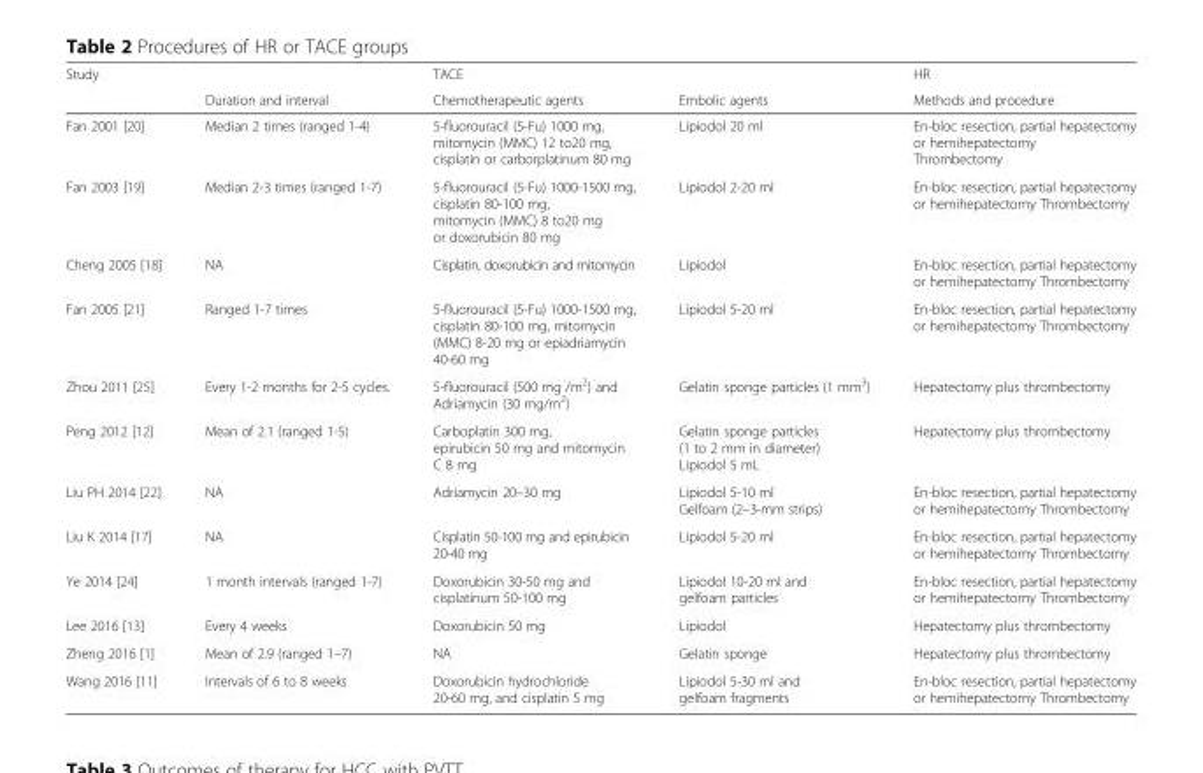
<table><thead><tr><td rowspan="2">Study</td><td rowspan="2">Duration and interval</td><td rowspan="2">TACE Chemotherapeutic agents</td><td rowspan="2">Embolic agents</td><td rowspan="2">HR Methods and procedure</td></tr><tr></tr></thead><tbody><tr><td>Fan 2001 [20]</td><td>Median 2 times (ranged 1-4)</td><td>5-fluorouracil (5-Fu) 1000 mg, mitomycin (MMC) 12 to20 mg, cisplatin or carborplatinum 80 mg</td><td>Lipiodol 20 ml</td><td>En-bloc resection, partial hepatectomy or hemihepatectomy Thrombectomy</td></tr><tr><td>Fan 2003 [19]</td><td>Median 2-3 times (ranged 1-7)</td><td>5-fluorouracil (5-Fu) 1000-1500 mg, cisplatin 80-100 mg, mitomycin (MMC) 8 to20 mg or doxorubicin 80 mg</td><td>Lipiodol 2-20 ml</td><td>En-bloc resection, partial hepatectomy or hemihepatectomy Thrombectomy</td></tr><tr><td>Cheng 2005 [18]</td><td>NA</td><td>Cisplatin, doxorubicin and mitomycin</td><td>Lipiodol</td><td>En-bloc resection, partial hepatectomy or hemihepatectomy Thrombectomy</td></tr><tr><td>Fan 2005 [21]</td><td>Ranged 1-7 times</td><td>5-fluorouracil (5-Fu) 1000-1500 mg, cisplatin 80-100 mg, mitomycin (MMC) 8-20 mg or epiadriamycin 40-60 mg</td><td>Lipiodol 5-20 ml</td><td>En-bloc resection, partial hepatectomy or hemihepatectomy Thrombectomy</td></tr><tr><td>Zhou 2011 [25]</td><td>Every 1-2 months for 2-5 cycles.</td><td>5-fluorouracil (500 mg /m<sup>2</sup>) and Adriamycin (30 mg/m<sup>2</sup>)</td><td>Gelatin sponge particles (1 mm<sup>3</sup>)</td><td>Hepatectomy plus thrombectomy</td></tr><tr><td>Peng 2012 [12]</td><td>Mean of 2.1 (ranged 1-5)</td><td>Carboplatin 300 mg, epirubicin 50 mg and mitomycin C 8 mg</td><td>Gelatin sponge particles (1 to 2 mm in diameter) Lipiodol 5 mL</td><td>Hepatectomy plus thrombectomy</td></tr><tr><td>Liu PH 2014 [22]</td><td>NA</td><td>Adriamycin 20–30 mg</td><td>Lipiodol 5-10 ml Gelfoam (2–3-mm strips)</td><td>En-bloc resection, partial hepatectomy or hemihepatectomy Thrombectomy</td></tr><tr><td>Liu K 2014 [17]</td><td>NA</td><td>Cisplatin 50-100 mg and epirubicin 20-40 mg</td><td>Lipiodol 5-20 ml</td><td>En-bloc resection, partial hepatectomy or hemihepatectomy Thrombectomy</td></tr><tr><td>Ye 2014 [24]</td><td>1 month intervals (ranged 1-7)</td><td>Doxorubicin 30-50 mg and cisplatinum 50-100 mg</td><td>Lipiodol 10-20 ml and gelfoam particles</td><td>En-bloc resection, partial hepatectomy or hemihepatectomy Thrombectomy</td></tr><tr><td>Lee 2016 [13]</td><td>Every 4 weeks</td><td>Doxorubicin 50 mg</td><td>Lipiodol</td><td>Hepatectomy plus thrombectomy</td></tr><tr><td>Zheng 2016 [1]</td><td>Mean of 2.9 (ranged 1–7)</td><td>NA</td><td>Gelatin sponge</td><td>Hepatectomy plus thrombectomy</td></tr><tr><td>Wang 2016 [11]</td><td>Intervals of 6 to 8 weeks</td><td>Doxorubicin hydrochloride 20-60 mg, and cisplatin 5 mg</td><td>Lipiodol 5-30 ml and gelfoam fragments</td><td>En-bloc resection, partial hepatectomy or hemihepatectomy Thrombectomy</td></tr></tbody></table>